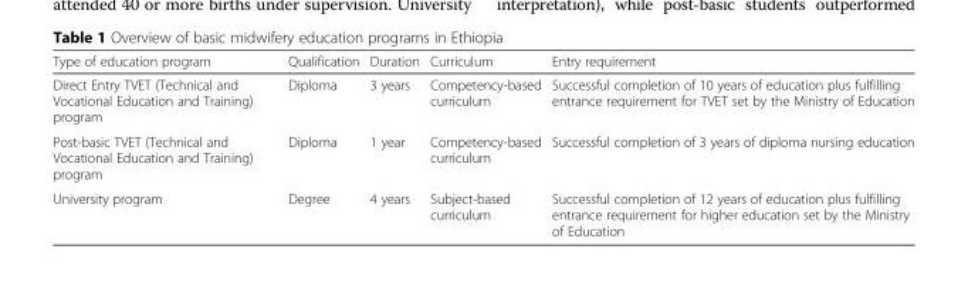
<table><thead><tr><td>Type of education program</td><td>Qualification</td><td>Duration</td><td>Curriculum</td><td>Entry requirement</td></tr></thead><tbody><tr><td>Direct Entry TVET (Technical and Vocational Education and Training) program</td><td>Diploma</td><td>3 years</td><td>Competency-based curriculum</td><td>Successful completion of 10 years of education plus fulfilling entrance requirement for TVET set by the Ministry of Education</td></tr><tr><td>Post-basic TVET (Technical and Vocational Education and Training) program</td><td>Diploma</td><td>1 year</td><td>Competency-based curriculum</td><td>Successful completion of 3 years of diploma nursing education</td></tr><tr><td>University program</td><td>Degree</td><td>4 years</td><td>Subject-based curriculum</td><td>Successful completion of 12 years of education plus fulfilling entrance requirement for higher education set by the Ministry of Education</td></tr></tbody></table>